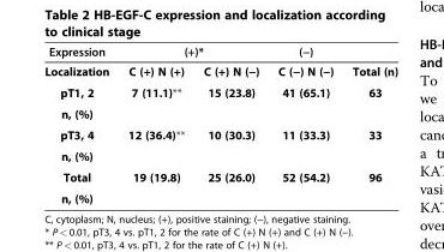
<table><thead><tr><td rowspan="2">Expression Localization</td><td colspan="2">(+)*</td><td rowspan="2">(−) C (−) N (−)</td><td rowspan="2">Total (n)</td></tr><tr><td>C (+) N (+)</td><td>C (+) N (−)</td></tr></thead><tbody><tr><td>pT1, 2</td><td>7 (11.1)**</td><td>15 (23.8)</td><td>41 (65.1)</td><td>63</td></tr><tr><td colspan="5">n, (%)</td></tr><tr><td>pT3, 4</td><td>12 (36.4)**</td><td>10 (30.3)</td><td>11 (33.3)</td><td>33</td></tr><tr><td colspan="5">n, (%)</td></tr><tr><td>Total</td><td>19 (19.8)</td><td>25 (26.0)</td><td>52 (54.2)</td><td>96</td></tr><tr><td>n, (%)</td><td></td><td></td><td></td><td></td></tr></tbody></table>